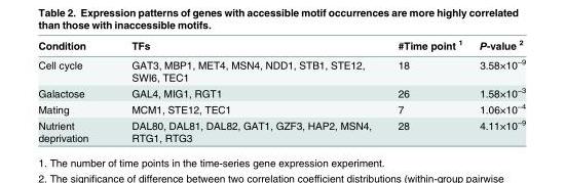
<table><thead><tr><td>Condition</td><td>TFs</td><td>#Time point <sup>1</sup></td><td>P-value <sup>2</sup></td></tr></thead><tbody><tr><td>Cell cycle</td><td>GAT3, MBP1, MET4, MSN4, NDD1, STB1, STE12, SWI6, TEC1</td><td>18</td><td>3.58×10<sup>−9</sup></td></tr><tr><td>Galactose</td><td>GAL4, MIG1, RGT1</td><td>26</td><td>1.58×10<sup>−3</sup></td></tr><tr><td>Mating</td><td>MCM1, STE12, TEC1</td><td>7</td><td>1.06×10<sup>−4</sup></td></tr><tr><td>Nutrient deprivation</td><td>DAL80, DAL81, DAL82, GAT1, GZF3, HAP2, MSN4, RTG1, RTG3</td><td>28</td><td>4.11×10<sup>−9</sup></td></tr></tbody></table>